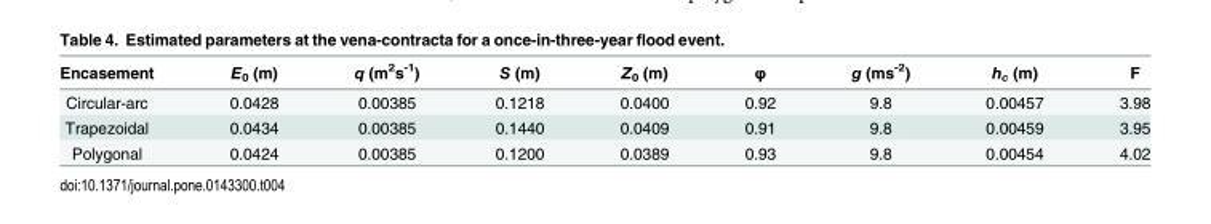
<table><thead><tr><td>Encasement</td><td>E<sub>0</sub> (m)</td><td>q (m<sup>2</sup>s<sup>-1</sup>)</td><td>S (m)</td><td>Z<sub>0</sub> (m)</td><td>φ</td><td>g (ms<sup>-2</sup>)</td><td>h<sub>c</sub> (m)</td><td>F</td></tr></thead><tbody><tr><td>Circular-arc</td><td>0.0428</td><td>0.00385</td><td>0.1218</td><td>0.0400</td><td>0.92</td><td>9.8</td><td>0.00457</td><td>3.98</td></tr><tr><td>Trapezoidal</td><td>0.0434</td><td>0.00385</td><td>0.1440</td><td>0.0409</td><td>0.91</td><td>9.8</td><td>0.00459</td><td>3.95</td></tr><tr><td>Polygonal</td><td>0.0424</td><td>0.00385</td><td>0.1200</td><td>0.0389</td><td>0.93</td><td>9.8</td><td>0.00454</td><td>4.02</td></tr></tbody></table>